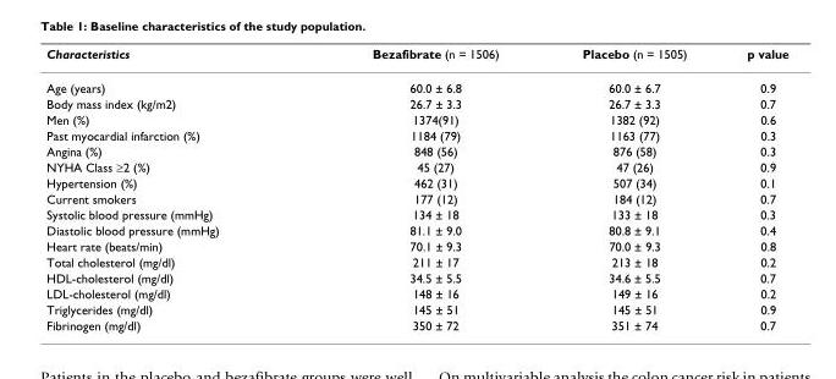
<table><thead><tr><td>Characteristics</td><td>Bezafibrate (n = 1506)</td><td>Placebo (n = 1505)</td><td>p value</td></tr></thead><tbody><tr><td>Age (years)</td><td>60.0 ± 6.8</td><td>60.0 ± 6.7</td><td>0.9</td></tr><tr><td>Body mass index (kg/m2)</td><td>26.7 ± 3.3</td><td>26.7 ± 3.3</td><td>0.7</td></tr><tr><td>Men (%)</td><td>1374(91)</td><td>1382 (92)</td><td>0.6</td></tr><tr><td>Past myocardial infarction (%)</td><td>1184 (79)</td><td>1163 (77)</td><td>0.3</td></tr><tr><td>Angina (%)</td><td>848 (56)</td><td>876 (58)</td><td>0.3</td></tr><tr><td>NYHA Class ≥2 (%)</td><td>45 (27)</td><td>47 (26)</td><td>0.9</td></tr><tr><td>Hypertension (%)</td><td>462 (31)</td><td>507 (34)</td><td>0.1</td></tr><tr><td>Current smokers</td><td>177 (12)</td><td>184 (12)</td><td>0.7</td></tr><tr><td>Systolic blood pressure (mmHg)</td><td>134 ± 18</td><td>133 ± 18</td><td>0.3</td></tr><tr><td>Diastolic blood pressure (mmHg)</td><td>81.1 ± 9.0</td><td>80.8 ± 9.1</td><td>0.4</td></tr><tr><td>Heart rate (beats/min)</td><td>70.1 ± 9.3</td><td>70.0 ± 9.3</td><td>0.8</td></tr><tr><td>Total cholesterol (mg/dl)</td><td>211 ± 17</td><td>213 ± 18</td><td>0.2</td></tr><tr><td>HDL-cholesterol (mg/dl)</td><td>34.5 ± 5.5</td><td>34.6 ± 5.5</td><td>0.7</td></tr><tr><td>LDL-cholesterol (mg/dl)</td><td>148 ± 16</td><td>149 ± 16</td><td>0.2</td></tr><tr><td>Triglycerides (mg/dl)</td><td>145 ± 51</td><td>145 ± 51</td><td>0.9</td></tr><tr><td>Fibrinogen (mg/dl)</td><td>350 ± 72</td><td>351 ± 74</td><td>0.7</td></tr></tbody></table>